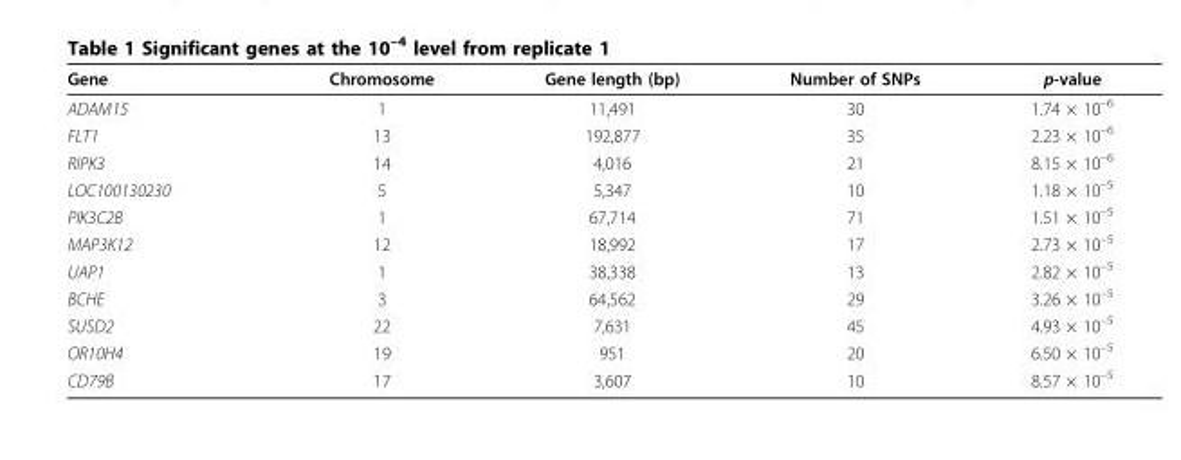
<table><thead><tr><td>Gene</td><td>Chromosome</td><td>Gene length (bp)</td><td>Number of SNPs</td><td>p-value</td></tr></thead><tbody><tr><td>ADAM15</td><td>1</td><td>11,491</td><td>30</td><td>1.74 × 10<sup>–6</sup></td></tr><tr><td>FLT1</td><td>13</td><td>192,877</td><td>35</td><td>2.23 × 10<sup>–6</sup></td></tr><tr><td>RIPK3</td><td>14</td><td>4,016</td><td>21</td><td>8.15 × 10<sup>–6</sup></td></tr><tr><td>LOC100130230</td><td>5</td><td>5,347</td><td>10</td><td>1.18 × 10<sup>–5</sup></td></tr><tr><td>PIK3C2B</td><td>1</td><td>67,714</td><td>71</td><td>1.51 × 10<sup>–5</sup></td></tr><tr><td>MAP3K12</td><td>12</td><td>18,992</td><td>17</td><td>2.73 × 10<sup>–5</sup></td></tr><tr><td>UAP1</td><td>1</td><td>38,338</td><td>13</td><td>2.82 × 10<sup>–5</sup></td></tr><tr><td>BCHE</td><td>3</td><td>64,562</td><td>29</td><td>3.26 × 10<sup>–5</sup></td></tr><tr><td>SUSD2</td><td>22</td><td>7,631</td><td>45</td><td>4.93 × 10<sup>–5</sup></td></tr><tr><td>OR10H4</td><td>19</td><td>951</td><td>20</td><td>6.50 × 10<sup>–5</sup></td></tr><tr><td>CD79B</td><td>17</td><td>3,607</td><td>10</td><td>8.57 × 10<sup>–5</sup></td></tr></tbody></table>